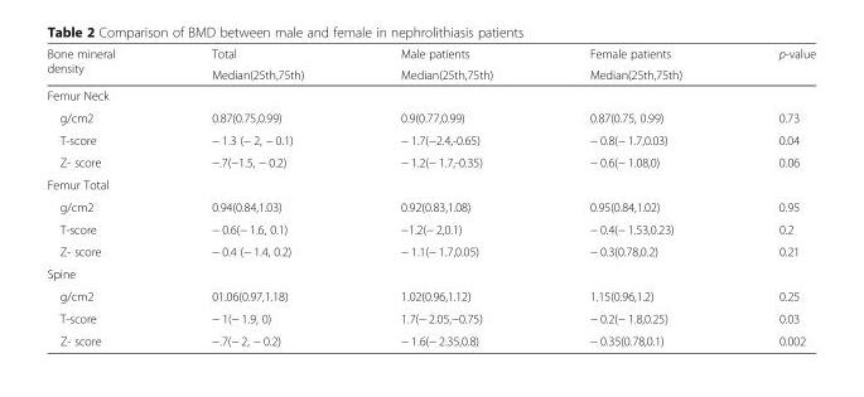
<table><thead><tr><td rowspan="2">Bone mineral density</td><td rowspan="2">Total Median(25th,75th)</td><td rowspan="2">Male patients Median(25th,75th)</td><td rowspan="2">Female patients Median(25th,75th)</td><td rowspan="2">p-value</td></tr><tr></tr></thead><tbody><tr><td colspan="5">Femur Neck</td></tr><tr><td>g/cm2</td><td>0.87(0.75,0.99)</td><td>0.9(0.77,0.99)</td><td>0.87(0.75, 0.99)</td><td>0.73</td></tr><tr><td>T-score</td><td>− 1.3 (− 2, − 0.1)</td><td>− 1.7(−2.4,-0.65)</td><td>− 0.8(− 1.7,0.03)</td><td>0.04</td></tr><tr><td>Z- score</td><td>−.7(−1.5, − 0.2)</td><td>− 1.2(− 1.7,-0.35)</td><td>− 0.6(− 1.08,0)</td><td>0.06</td></tr><tr><td colspan="5">Femur Total</td></tr><tr><td>g/cm2</td><td>0.94(0.84,1.03)</td><td>0.92(0.83,1.08)</td><td>0.95(0.84,1.02)</td><td>0.95</td></tr><tr><td>T-score</td><td>− 0.6(− 1.6, 0.1)</td><td>−1.2(− 2,0.1)</td><td>− 0.4(− 1.53,0.23)</td><td>0.2</td></tr><tr><td>Z- score</td><td>− 0.4 (− 1.4, 0.2)</td><td>− 1.1(− 1.7,0.05)</td><td>− 0.3(0.78,0.2)</td><td>0.21</td></tr><tr><td colspan="5">Spine</td></tr><tr><td>g/cm2</td><td>01.06(0.97,1.18)</td><td>1.02(0.96,1.12)</td><td>1.15(0.96,1.2)</td><td>0.25</td></tr><tr><td>T-score</td><td>− 1(− 1.9, 0)</td><td>1.7(− 2.05,−0.75)</td><td>− 0.2(− 1.8,0.25)</td><td>0.03</td></tr><tr><td>Z- score</td><td>−.7(− 2, − 0.2)</td><td>− 1.6(− 2.35,0.8)</td><td>− 0.35(0.78,0.1)</td><td>0.002</td></tr></tbody></table>